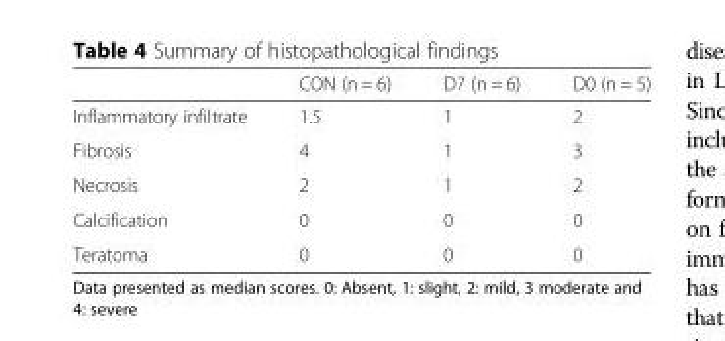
<table><thead><tr><td></td><td>CON (n = 6)</td><td>D7 (n = 6)</td><td>D0 (n = 5)</td></tr></thead><tbody><tr><td>Inflammatory infiltrate</td><td>1.5</td><td>1</td><td>2</td></tr><tr><td>Fibrosis</td><td>4</td><td>1</td><td>3</td></tr><tr><td>Necrosis</td><td>2</td><td>1</td><td>2</td></tr><tr><td>Calcification</td><td>0</td><td>0</td><td>0</td></tr><tr><td>Teratoma</td><td>0</td><td>0</td><td>0</td></tr></tbody></table>